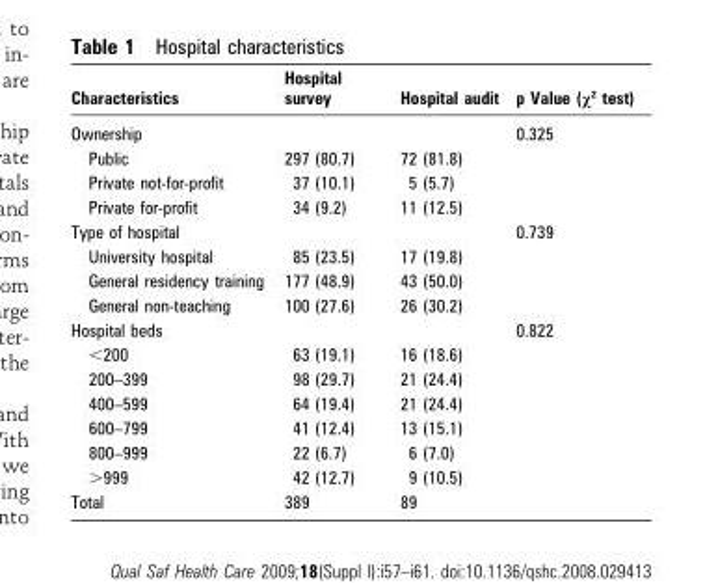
<table><thead><tr><td>Characteristics</td><td>Hospital survey</td><td>Hospital audit</td><td>p Value (χ<sup>2</sup> test)</td></tr></thead><tbody><tr><td>Ownership</td><td></td><td></td><td>0.325</td></tr><tr><td>Public</td><td>297 (80.7)</td><td>72 (81.8)</td><td></td></tr><tr><td>Private not-for-profit</td><td>37 (10.1)</td><td>5 (5.7)</td><td></td></tr><tr><td>Private for-profit</td><td>34 (9.2)</td><td>11 (12.5)</td><td></td></tr><tr><td>Type of hospital</td><td></td><td></td><td>0.739</td></tr><tr><td>University hospital</td><td>85 (23.5)</td><td>17 (19.8)</td><td></td></tr><tr><td>General residency training</td><td>177 (48.9)</td><td>43 (50.0)</td><td></td></tr><tr><td>General non-teaching</td><td>100 (27.6)</td><td>26 (30.2)</td><td></td></tr><tr><td>Hospital beds</td><td></td><td></td><td>0.822</td></tr><tr><td>&lt;200</td><td>63 (19.1)</td><td>16 (18.6)</td><td></td></tr><tr><td>200–399</td><td>98 (29.7)</td><td>21 (24.4)</td><td></td></tr><tr><td>400–599</td><td>64 (19.4)</td><td>21 (24.4)</td><td></td></tr><tr><td>600–799</td><td>41 (12.4)</td><td>13 (15.1)</td><td></td></tr><tr><td>800–999</td><td>22 (6.7)</td><td>6 (7.0)</td><td></td></tr><tr><td>&gt;999</td><td>42 (12.7)</td><td>9 (10.5)</td><td></td></tr><tr><td>Total</td><td>389</td><td>89</td><td></td></tr></tbody></table>